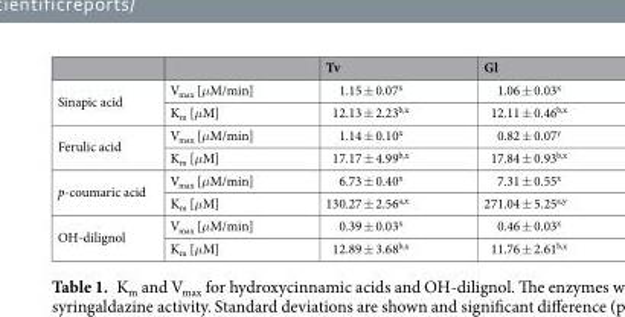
<table><thead><tr><td></td><td></td><td>Tv</td><td>Gl</td></tr></thead><tbody><tr><td rowspan="2">Sinapic acid</td><td>V<sub>max</sub> [μM/min]</td><td>1.15 ± 0.07<sup>x</sup></td><td>1.06 ± 0.03<sup>x</sup></td></tr><tr><td>K<sub>m</sub> [μM]</td><td>12.13 ± 2.23<sup>b,x</sup></td><td>12.11 ± 0.46<sup>b,x</sup></td></tr><tr><td rowspan="2">Ferulic acid</td><td>V<sub>max</sub> [μM/min]</td><td>1.14 ± 0.10<sup>x</sup></td><td>0.82 ± 0.07<sup>y</sup></td></tr><tr><td>K<sub>m</sub> [μM]</td><td>17.17 ± 4.99<sup>b,x</sup></td><td>17.84 ± 0.93<sup>b,x</sup></td></tr><tr><td rowspan="2">p-coumaric acid</td><td>V<sub>max</sub> [μM/min]</td><td>6.73 ± 0.40<sup>x</sup></td><td>7.31 ± 0.55<sup>x</sup></td></tr><tr><td>K<sub>m</sub> [μM]</td><td>130.27 ± 2.56<sup>a,x</sup></td><td>271.04 ± 5.25<sup>a,y</sup></td></tr><tr><td rowspan="2">OH-dilignol</td><td>V<sub>max</sub> [μM/min]</td><td>0.39 ± 0.03<sup>x</sup></td><td>0.46 ± 0.03<sup>x</sup></td></tr><tr><td>K<sub>m</sub> [μM]</td><td>12.89 ± 3.68<sup>b,x</sup></td><td>11.76 ± 2.61<sup>b,x</sup></td></tr></tbody></table>